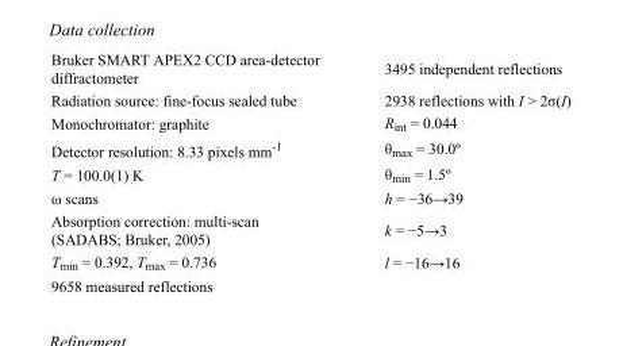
<table><tbody><tr><td>Bruker SMART APEX2 CCD area-detector diffractometer</td><td>3495 independent reflections</td></tr><tr><td>Radiation source: fine-focus sealed tube</td><td>2938 reflections with I &gt; 2σ(I)</td></tr><tr><td>Monochromator: graphite</td><td>R<sub>int</sub> = 0.044</td></tr><tr><td>Detector resolution: 8.33 pixels mm<sup>-1</sup></td><td>θ<sub>max</sub> = 30.0º</td></tr><tr><td>T = 100.0(1) K</td><td>θ<sub>min</sub> = 1.5º</td></tr><tr><td>ω scans</td><td>h = −36→39</td></tr><tr><td>Absorption correction: multi-scan (SADABS; Bruker, 2005)</td><td>k = −5→3</td></tr><tr><td>T<sub>min</sub> = 0.392, T<sub>max</sub> = 0.736</td><td>l = −16→16</td></tr><tr><td>9658 measured reflections</td><td></td></tr></tbody></table>